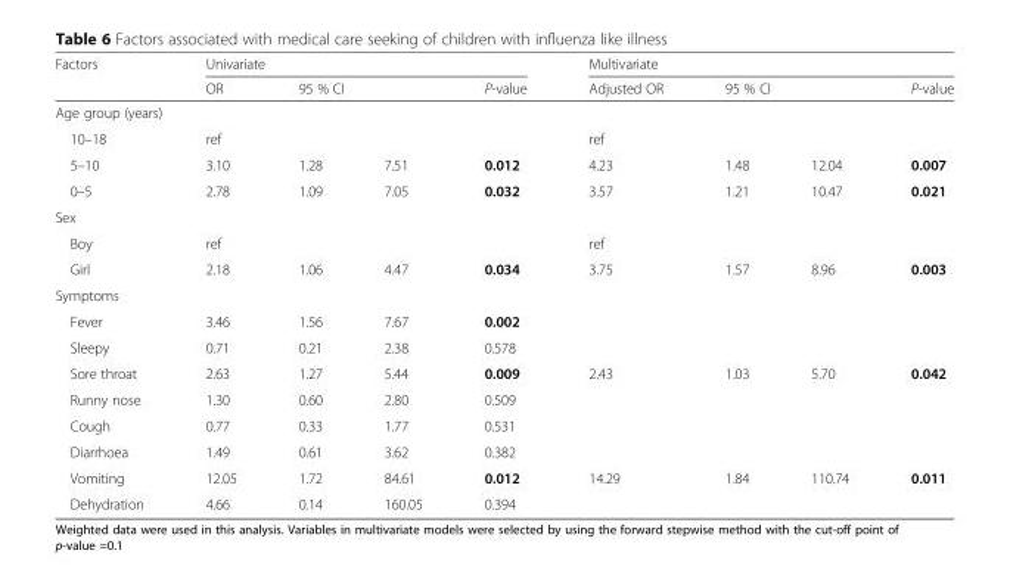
<table><thead><tr><td rowspan="2">Factors</td><td colspan="4">Univariate</td><td colspan="4">Multivariate</td></tr><tr><td>OR</td><td colspan="2">95 % CI</td><td>P-value</td><td>Adjusted OR</td><td colspan="2">95 % CI</td><td>P-value</td></tr><tr><td colspan="9">Age group (years)</td></tr><tr><td>10–18</td><td>ref</td><td></td><td></td><td></td><td>ref</td><td></td><td></td><td></td></tr></thead><tbody><tr><td>5–10</td><td>3.10</td><td>1.28</td><td>7.51</td><td>0.012</td><td>4.23</td><td>1.48</td><td>12.04</td><td>0.007</td></tr><tr><td>0–5</td><td>2.78</td><td>1.09</td><td>7.05</td><td>0.032</td><td>3.57</td><td>1.21</td><td>10.47</td><td>0.021</td></tr><tr><td colspan="9">Sex</td></tr><tr><td>Boy</td><td>ref</td><td></td><td></td><td></td><td>ref</td><td></td><td></td><td></td></tr><tr><td>Girl</td><td>2.18</td><td>1.06</td><td>4.47</td><td>0.034</td><td>3.75</td><td>1.57</td><td>8.96</td><td>0.003</td></tr><tr><td colspan="9">Symptoms</td></tr><tr><td>Fever</td><td>3.46</td><td>1.56</td><td>7.67</td><td>0.002</td><td></td><td></td><td></td><td></td></tr><tr><td>Sleepy</td><td>0.71</td><td>0.21</td><td>2.38</td><td>0.578</td><td></td><td></td><td></td><td></td></tr><tr><td>Sore throat</td><td>2.63</td><td>1.27</td><td>5.44</td><td>0.009</td><td>2.43</td><td>1.03</td><td>5.70</td><td>0.042</td></tr><tr><td>Runny nose</td><td>1.30</td><td>0.60</td><td>2.80</td><td>0.509</td><td></td><td></td><td></td><td></td></tr><tr><td>Cough</td><td>0.77</td><td>0.33</td><td>1.77</td><td>0.531</td><td></td><td></td><td></td><td></td></tr><tr><td>Diarrhoea</td><td>1.49</td><td>0.61</td><td>3.62</td><td>0.382</td><td></td><td></td><td></td><td></td></tr><tr><td>Vomiting</td><td>12.05</td><td>1.72</td><td>84.61</td><td>0.012</td><td>14.29</td><td>1.84</td><td>110.74</td><td>0.011</td></tr><tr><td>Dehydration</td><td>4.66</td><td>0.14</td><td>160.05</td><td>0.394</td><td></td><td></td><td></td><td></td></tr></tbody></table>